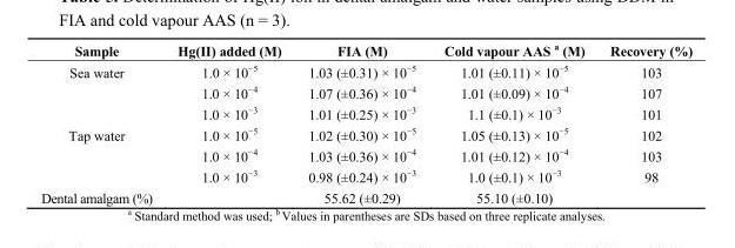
<table><thead><tr><td>Sample</td><td>Hg(II) added (M)</td><td>FIA (M)</td><td>Cold vapour AAS a (M)</td><td>Recovery (%)</td></tr></thead><tbody><tr><td rowspan="3">Sea water</td><td>1.0 × 10<sup>−5</sup></td><td>1.03 (±0.31) × 10<sup>−5</sup></td><td>1.01 (±0.11) × 10<sup>−5</sup></td><td>103</td></tr><tr><td>1.0 × 10<sup>−4</sup></td><td>1.07 (±0.36) × 10<sup>−4</sup></td><td>1.01 (±0.09) × 10<sup>−4</sup></td><td>107</td></tr><tr><td>1.0 × 10<sup>−3</sup></td><td>1.01 (±0.25) × 10<sup>−3</sup></td><td>1.1 (±0.1) × 10<sup>−3</sup></td><td>101</td></tr><tr><td rowspan="3">Tap water</td><td>1.0 × 10<sup>−5</sup></td><td>1.02 (±0.30) × 10<sup>−5</sup></td><td>1.05 (±0.13) × 10<sup>−5</sup></td><td>102</td></tr><tr><td>1.0 × 10<sup>−4</sup></td><td>1.03 (±0.36) × 10<sup>−4</sup></td><td>1.01 (±0.12) × 10<sup>−4</sup></td><td>103</td></tr><tr><td>1.0 × 10<sup>−3</sup></td><td>0.98 (±0.24) × 10<sup>−3</sup></td><td>1.0 (±0.1) × 10<sup>−3</sup></td><td>98</td></tr><tr><td>Dental amalgam (%)</td><td></td><td>55.62 (±0.29)</td><td>55.10 (±0.10)</td><td></td></tr></tbody></table>